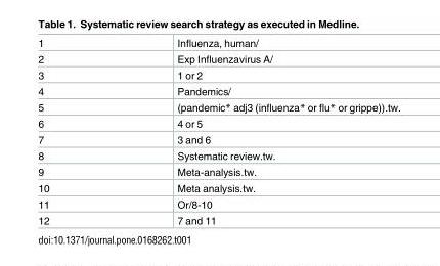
<table><tbody><tr><td>1</td><td>Influenza, human/</td></tr><tr><td>2</td><td>Exp Influenzavirus A/</td></tr><tr><td>3</td><td>1 or 2</td></tr><tr><td>4</td><td>Pandemics/</td></tr><tr><td>5</td><td>(pandemic* adj3 (influenza* or flu* or grippe)).tw.</td></tr><tr><td>6</td><td>4 or 5</td></tr><tr><td>7</td><td>3 and 6</td></tr><tr><td>8</td><td>Systematic review.tw.</td></tr><tr><td>9</td><td>Meta-analysis.tw.</td></tr><tr><td>10</td><td>Meta analysis.tw.</td></tr><tr><td>11</td><td>Or/8-10</td></tr><tr><td>12</td><td>7 and 11</td></tr></tbody></table>